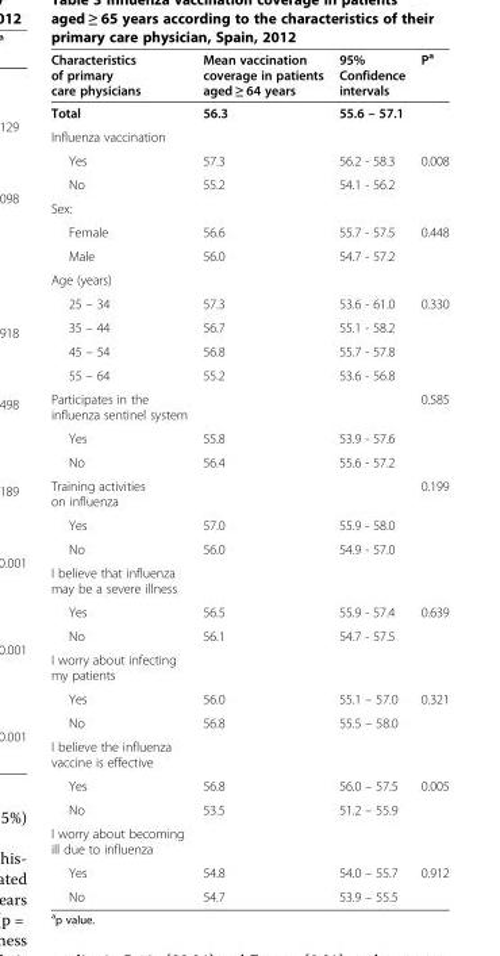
<table><thead><tr><td>Characteristics of primary care physicians</td><td>Mean vaccination coverage in patients aged ≥ 64 years</td><td>95% Confidence intervals</td><td>P<sup>a</sup></td></tr></thead><tbody><tr><td>Total</td><td>56.3</td><td>55.6 – 57.1</td><td></td></tr><tr><td colspan="4">Influenza vaccination</td></tr><tr><td>Yes</td><td>57.3</td><td>56.2 - 58.3</td><td>0.008</td></tr><tr><td>No</td><td>55.2</td><td>54.1 - 56.2</td><td></td></tr><tr><td colspan="4">Sex:</td></tr><tr><td>Female</td><td>56.6</td><td>55.7 - 57.5</td><td>0.448</td></tr><tr><td>Male</td><td>56.0</td><td>54.7 - 57.2</td><td></td></tr><tr><td colspan="4">Age (years)</td></tr><tr><td>25 – 34</td><td>57.3</td><td>53.6 - 61.0</td><td>0.330</td></tr><tr><td>35 – 44</td><td>56.7</td><td>55.1 - 58.2</td><td></td></tr><tr><td>45 – 54</td><td>56.8</td><td>55.7 - 57.8</td><td></td></tr><tr><td>55 – 64</td><td>55.2</td><td>53.6 - 56.8</td><td></td></tr><tr><td>Participates in the influenza sentinel system</td><td></td><td></td><td>0.585</td></tr><tr><td>Yes</td><td>55.8</td><td>53.9 - 57.6</td><td></td></tr><tr><td>No</td><td>56.4</td><td>55.6 - 57.2</td><td></td></tr><tr><td>Training activities on influenza</td><td></td><td></td><td>0.199</td></tr><tr><td>Yes</td><td>57.0</td><td>55.9 - 58.0</td><td></td></tr><tr><td>No</td><td>56.0</td><td>54.9 - 57.0</td><td></td></tr><tr><td colspan="4">I believe that influenza may be a severe illness</td></tr><tr><td>Yes</td><td>56.5</td><td>55.9 - 57.4</td><td>0.639</td></tr><tr><td>No</td><td>56.1</td><td>54.7 - 57.5</td><td></td></tr><tr><td colspan="4">I worry about infecting my patients</td></tr><tr><td>Yes</td><td>56.0</td><td>55.1 – 57.0</td><td>0.321</td></tr><tr><td>No</td><td>56.8</td><td>55.5 – 58.0</td><td></td></tr><tr><td colspan="4">I believe the influenza vaccine is effective</td></tr><tr><td>Yes</td><td>56.8</td><td>56.0 – 57.5</td><td>0.005</td></tr><tr><td>No</td><td>53.5</td><td>51.2 – 55.9</td><td></td></tr><tr><td colspan="4">I worry about becoming ill due to influenza</td></tr><tr><td>Yes</td><td>54.8</td><td>54.0 – 55.7</td><td>0.912</td></tr><tr><td>No</td><td>54.7</td><td>53.9 – 55.5</td><td></td></tr></tbody></table>